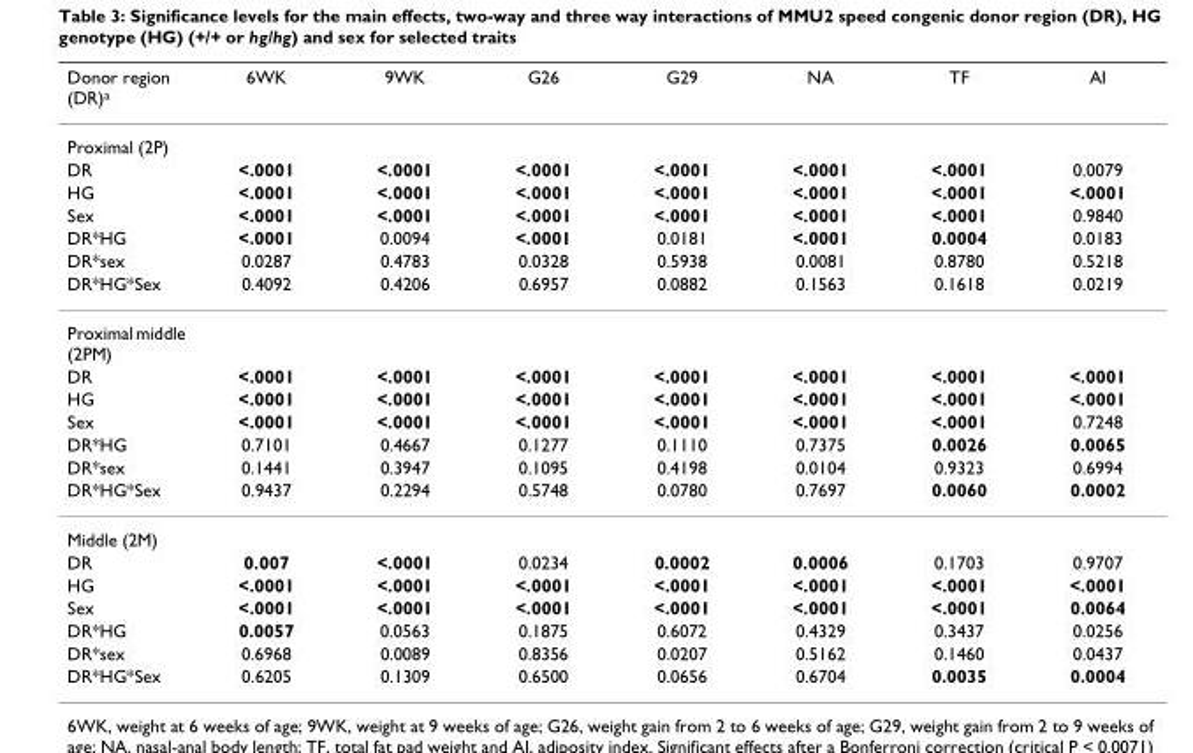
<table><thead><tr><td>Donor region (DR)a</td><td>6WK</td><td>9WK</td><td>G26</td><td>G29</td><td>NA</td><td>TF</td><td>AI</td></tr></thead><tbody><tr><td colspan="8">Proximal (2P)</td></tr><tr><td>DR</td><td>&lt;.0001</td><td>&lt;.0001</td><td>&lt;.0001</td><td>&lt;.0001</td><td>&lt;.0001</td><td>&lt;.0001</td><td>0.0079</td></tr><tr><td>HG</td><td>&lt;.0001</td><td>&lt;.0001</td><td>&lt;.0001</td><td>&lt;.0001</td><td>&lt;.0001</td><td>&lt;.0001</td><td>&lt;.0001</td></tr><tr><td>Sex</td><td>&lt;.0001</td><td>&lt;.0001</td><td>&lt;.0001</td><td>&lt;.0001</td><td>&lt;.0001</td><td>&lt;.0001</td><td>0.9840</td></tr><tr><td>DR*HG</td><td>&lt;.0001</td><td>0.0094</td><td>&lt;.0001</td><td>0.0181</td><td>&lt;.0001</td><td>0.0004</td><td>0.0183</td></tr><tr><td>DR*sex</td><td>0.0287</td><td>0.4783</td><td>0.0328</td><td>0.5938</td><td>0.0081</td><td>0.8780</td><td>0.5218</td></tr><tr><td>DR*HG*Sex</td><td>0.4092</td><td>0.4206</td><td>0.6957</td><td>0.0882</td><td>0.1563</td><td>0.1618</td><td>0.0219</td></tr><tr><td colspan="8">Proximal middle (2PM)</td></tr><tr><td>DR</td><td>&lt;.0001</td><td>&lt;.0001</td><td>&lt;.0001</td><td>&lt;.0001</td><td>&lt;.0001</td><td>&lt;.0001</td><td>&lt;.0001</td></tr><tr><td>HG</td><td>&lt;.0001</td><td>&lt;.0001</td><td>&lt;.0001</td><td>&lt;.0001</td><td>&lt;.0001</td><td>&lt;.0001</td><td>&lt;.0001</td></tr><tr><td>Sex</td><td>&lt;.0001</td><td>&lt;.0001</td><td>&lt;.0001</td><td>&lt;.0001</td><td>&lt;.0001</td><td>&lt;.0001</td><td>0.7248</td></tr><tr><td>DR*HG</td><td>0.7101</td><td>0.4667</td><td>0.1277</td><td>0.1110</td><td>0.7375</td><td>0.0026</td><td>0.0065</td></tr><tr><td>DR*sex</td><td>0.1441</td><td>0.3947</td><td>0.1095</td><td>0.4198</td><td>0.0104</td><td>0.9323</td><td>0.6994</td></tr><tr><td>DR*HG*Sex</td><td>0.9437</td><td>0.2294</td><td>0.5748</td><td>0.0780</td><td>0.7697</td><td>0.0060</td><td>0.0002</td></tr><tr><td colspan="8">Middle (2M)</td></tr><tr><td>DR</td><td>0.007</td><td>&lt;.0001</td><td>0.0234</td><td>0.0002</td><td>0.0006</td><td>0.1703</td><td>0.9707</td></tr><tr><td>HG</td><td>&lt;.0001</td><td>&lt;.0001</td><td>&lt;.0001</td><td>&lt;.0001</td><td>&lt;.0001</td><td>&lt;.0001</td><td>&lt;.0001</td></tr><tr><td>Sex</td><td>&lt;.0001</td><td>&lt;.0001</td><td>&lt;.0001</td><td>&lt;.0001</td><td>&lt;.0001</td><td>&lt;.0001</td><td>0.0064</td></tr><tr><td>DR*HG</td><td>0.0057</td><td>0.0563</td><td>0.1875</td><td>0.6072</td><td>0.4329</td><td>0.3437</td><td>0.0256</td></tr><tr><td>DR*sex</td><td>0.6968</td><td>0.0089</td><td>0.8356</td><td>0.0207</td><td>0.5162</td><td>0.1460</td><td>0.0437</td></tr><tr><td>DR*HG*Sex</td><td>0.6205</td><td>0.1309</td><td>0.6500</td><td>0.0656</td><td>0.6704</td><td>0.0035</td><td>0.0004</td></tr></tbody></table>